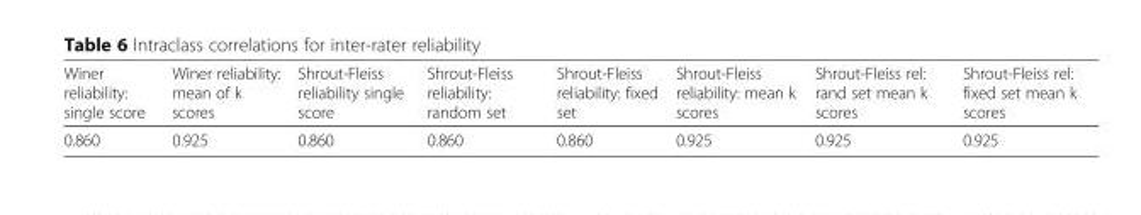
<table><thead><tr><td>Winer reliability: single score</td><td>Winer reliability: mean of k scores</td><td>Shrout-Fleiss reliability single score</td><td>Shrout-Fleiss reliability: random set</td><td>Shrout-Fleiss reliability: fixed set</td><td>Shrout-Fleiss reliability: mean k scores</td><td>Shrout-Fleiss rel: rand set mean k scores</td><td>Shrout-Fleiss rel: fixed set mean k scores</td></tr></thead><tbody><tr><td>0.860</td><td>0.925</td><td>0.860</td><td>0.860</td><td>0.860</td><td>0.925</td><td>0.925</td><td>0.925</td></tr></tbody></table>